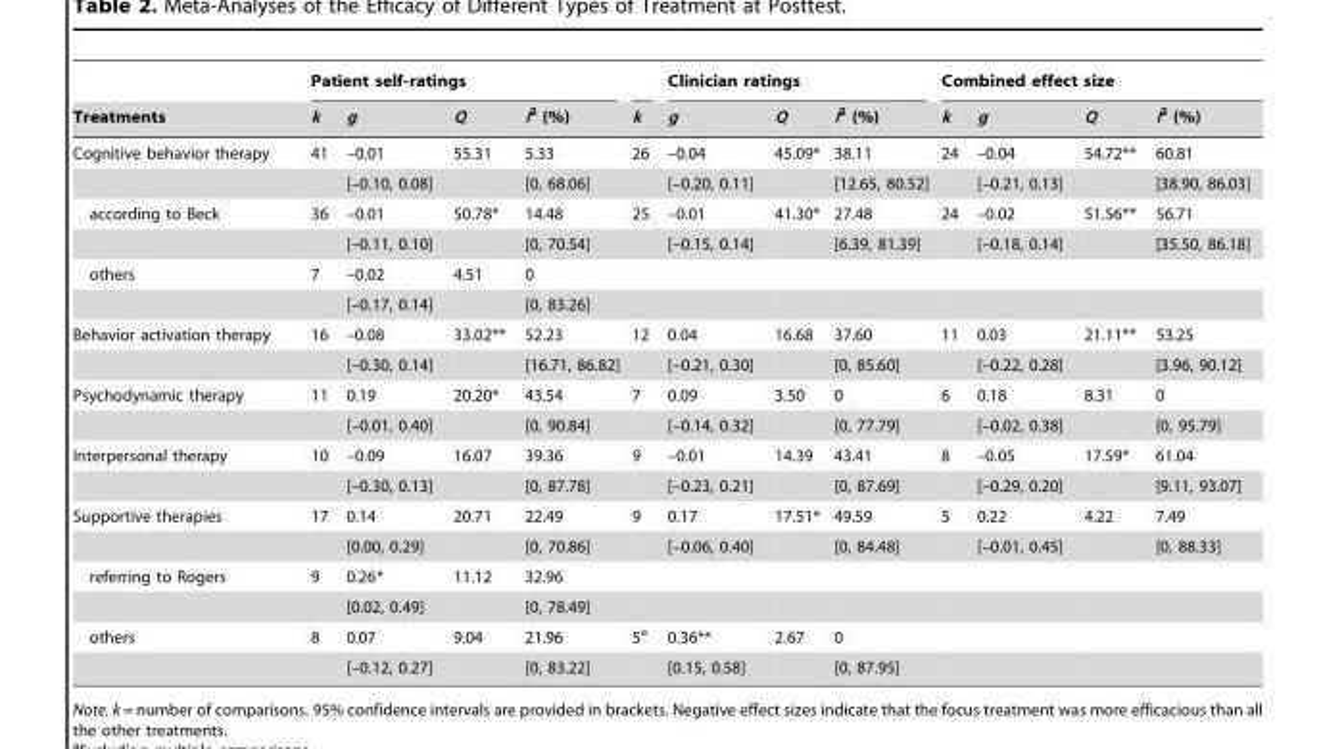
<table><thead><tr><td rowspan="2">Treatments</td><td colspan="4">Patient self-ratings</td><td rowspan="2">k</td><td colspan="3">Clinician ratings</td><td colspan="4">Combined effect size</td></tr><tr><td>k</td><td>g</td><td>Q</td><td>I<sup>2</sup> (%)</td><td>g</td><td>Q</td><td>I<sup>2</sup> (%)</td><td>k</td><td>g</td><td>Q</td><td>I<sup>2</sup> (%)</td></tr></thead><tbody><tr><td rowspan="2">Cognitive behavior therapy</td><td>41</td><td>–0.01</td><td>55.31</td><td>5.33</td><td>26</td><td>–0.04</td><td>45.09*</td><td>38.11</td><td>24</td><td>–0.04</td><td>54.72**</td><td>60.81</td></tr><tr><td></td><td>[–0.10, 0.08]</td><td></td><td>[0, 68.06]</td><td></td><td>[–0.20, 0.11]</td><td></td><td>[12.65, 80.52]</td><td></td><td>[–0.21, 0.13]</td><td></td><td>[38.90, 86.03]</td></tr><tr><td rowspan="2">according to Beck</td><td>36</td><td>–0.01</td><td>50.78*</td><td>14.48</td><td>25</td><td>–0.01</td><td>41.30*</td><td>27.48</td><td>24</td><td>–0.02</td><td>51.56**</td><td>56.71</td></tr><tr><td></td><td>[–0.11, 0.10]</td><td></td><td>[0, 70.54]</td><td></td><td>[–0.15, 0.14]</td><td></td><td>[6.39, 81.39]</td><td></td><td>[–0.18, 0.14]</td><td></td><td>[35.50, 86.18]</td></tr><tr><td rowspan="2">others</td><td>7</td><td>–0.02</td><td>4.51</td><td>0</td><td></td><td></td><td></td><td></td><td></td><td></td><td></td><td></td></tr><tr><td></td><td>[–0.17, 0.14]</td><td></td><td>[0, 83.26]</td><td></td><td></td><td></td><td></td><td></td><td></td><td></td><td></td></tr><tr><td rowspan="2">Behavior activation therapy</td><td>16</td><td>–0.08</td><td>33.02**</td><td>52.23</td><td>12</td><td>0.04</td><td>16.68</td><td>37.60</td><td>11</td><td>0.03</td><td>21.11**</td><td>53.25</td></tr><tr><td></td><td>[–0.30, 0.14]</td><td></td><td>[16.71, 86.82]</td><td></td><td>[–0.21, 0.30]</td><td></td><td>[0, 85.60]</td><td></td><td>[–0.22, 0.28]</td><td></td><td>[3.96, 90.12]</td></tr><tr><td rowspan="2">Psychodynamic therapy</td><td>11</td><td>0.19</td><td>20.20*</td><td>43.54</td><td>7</td><td>0.09</td><td>3.50</td><td>0</td><td>6</td><td>0.18</td><td>8.31</td><td>0</td></tr><tr><td></td><td>[–0.01, 0.40]</td><td></td><td>[0, 90.84]</td><td></td><td>[–0.14, 0.32]</td><td></td><td>[0, 77.79]</td><td></td><td>[–0.02, 0.38]</td><td></td><td>[0, 95.79]</td></tr><tr><td rowspan="2">Interpersonal therapy</td><td>10</td><td>–0.09</td><td>16.07</td><td>39.36</td><td>9</td><td>–0.01</td><td>14.39</td><td>43.41</td><td>8</td><td>–0.05</td><td>17.59*</td><td>61.04</td></tr><tr><td></td><td>[–0.30, 0.13]</td><td></td><td>[0, 87.78]</td><td></td><td>[–0.23, 0.21]</td><td></td><td>[0, 87.69]</td><td></td><td>[–0.29, 0.20]</td><td></td><td>[9.11, 93.07]</td></tr><tr><td rowspan="2">Supportive therapies</td><td>17</td><td>0.14</td><td>20.71</td><td>22.49</td><td>9</td><td>0.17</td><td>17.51*</td><td>49.59</td><td>5</td><td>0.22</td><td>4.22</td><td>7.49</td></tr><tr><td></td><td>[0.00, 0.29]</td><td></td><td>[0, 70.86]</td><td></td><td>[–0.06, 0.40]</td><td></td><td>[0, 84.48]</td><td></td><td>[–0.01, 0.45]</td><td></td><td>[0, 88.33]</td></tr><tr><td rowspan="2">referring to Rogers</td><td>9</td><td>0.26*</td><td>11.12</td><td>32.96</td><td></td><td></td><td></td><td></td><td></td><td></td><td></td><td></td></tr><tr><td></td><td>[0.02, 0.49]</td><td></td><td>[0, 78.49]</td><td></td><td></td><td></td><td></td><td></td><td></td><td></td><td></td></tr><tr><td rowspan="2">others</td><td>8</td><td>0.07</td><td>9.04</td><td>21.96</td><td>5<sup>a</sup></td><td>0.36**</td><td>2.67</td><td>0</td><td></td><td></td><td></td><td></td></tr><tr><td></td><td>[–0.12, 0.27]</td><td></td><td>[0, 83.22]</td><td></td><td>[0.15, 0.58]</td><td></td><td>[0, 87.95]</td><td></td><td></td><td></td><td></td></tr></tbody></table>